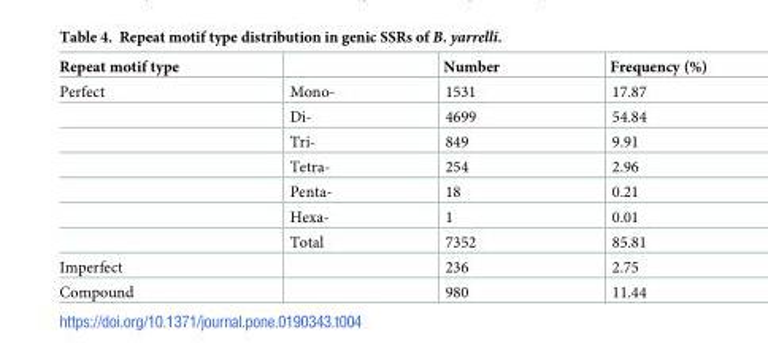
<table><thead><tr><td>Repeat motif type</td><td></td><td>Number</td><td>Frequency (%)</td></tr></thead><tbody><tr><td rowspan="7">Perfect</td><td>Mono-</td><td>1531</td><td>17.87</td></tr><tr><td>Di-</td><td>4699</td><td>54.84</td></tr><tr><td>Tri-</td><td>849</td><td>9.91</td></tr><tr><td>Tetra-</td><td>254</td><td>2.96</td></tr><tr><td>Penta-</td><td>18</td><td>0.21</td></tr><tr><td>Hexa-</td><td>1</td><td>0.01</td></tr><tr><td>Total</td><td>7352</td><td>85.81</td></tr><tr><td>Imperfect</td><td></td><td>236</td><td>2.75</td></tr><tr><td>Compound</td><td></td><td>980</td><td>11.44</td></tr></tbody></table>